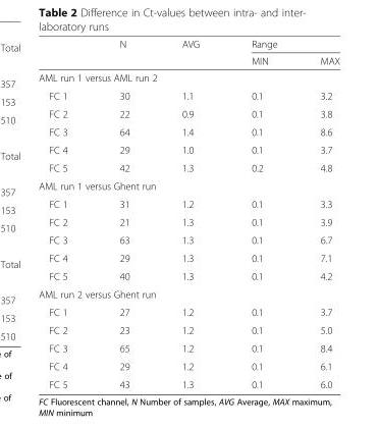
<table><thead><tr><td rowspan="2"></td><td rowspan="2">N</td><td rowspan="2">AVG</td><td colspan="2">Range</td></tr><tr><td>MIN</td><td>MAX</td></tr></thead><tbody><tr><td colspan="5">AML run 1 versus AML run 2</td></tr><tr><td>FC 1</td><td>30</td><td>1.1</td><td>0.1</td><td>3.2</td></tr><tr><td>FC 2</td><td>22</td><td>0.9</td><td>0.1</td><td>3.8</td></tr><tr><td>FC 3</td><td>64</td><td>1.4</td><td>0.1</td><td>8.6</td></tr><tr><td>FC 4</td><td>29</td><td>1.0</td><td>0.1</td><td>3.7</td></tr><tr><td>FC 5</td><td>42</td><td>1.3</td><td>0.2</td><td>4.8</td></tr><tr><td colspan="5">AML run 1 versus Ghent run</td></tr><tr><td>FC 1</td><td>31</td><td>1.2</td><td>0.1</td><td>3.3</td></tr><tr><td>FC 2</td><td>21</td><td>1.3</td><td>0.1</td><td>3.9</td></tr><tr><td>FC 3</td><td>63</td><td>1.3</td><td>0.1</td><td>6.7</td></tr><tr><td>FC 4</td><td>29</td><td>1.3</td><td>0.1</td><td>7.1</td></tr><tr><td>FC 5</td><td>40</td><td>1.3</td><td>0.1</td><td>4.2</td></tr><tr><td colspan="5">AML run 2 versus Ghent run</td></tr><tr><td>FC 1</td><td>27</td><td>1.2</td><td>0.1</td><td>3.7</td></tr><tr><td>FC 2</td><td>23</td><td>1.2</td><td>0.1</td><td>5.0</td></tr><tr><td>FC 3</td><td>65</td><td>1.2</td><td>0.1</td><td>8.4</td></tr><tr><td>FC 4</td><td>29</td><td>1.2</td><td>0.1</td><td>6.1</td></tr><tr><td>FC 5</td><td>43</td><td>1.3</td><td>0.1</td><td>6.0</td></tr></tbody></table>